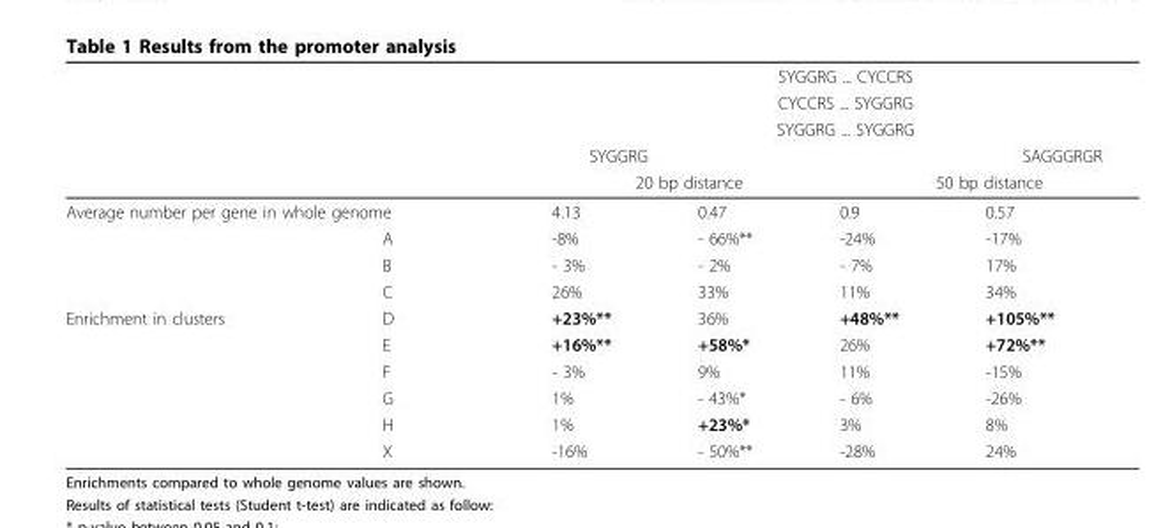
<table><thead><tr><td rowspan="5"></td><td rowspan="5"></td><td rowspan="3" colspan="4">SYGGRG ... CYCCRS CYCCRS ... SYGGRG SYGGRG ... SYGGRG</td></tr><tr></tr><tr></tr><tr><td>SYGGRG</td><td></td><td></td><td>SAGGGRGR</td></tr><tr><td colspan="2">20 bp distance</td><td colspan="2">50 bp distance</td></tr></thead><tbody><tr><td colspan="2">Average number per gene in whole genome</td><td>4.13</td><td>0.47</td><td>0.9</td><td>0.57</td></tr><tr><td></td><td>A</td><td>-8%</td><td>- 66%**</td><td>-24%</td><td>-17%</td></tr><tr><td></td><td>B</td><td>- 3%</td><td>- 2%</td><td>- 7%</td><td>17%</td></tr><tr><td></td><td>C</td><td>26%</td><td>33%</td><td>11%</td><td>34%</td></tr><tr><td rowspan="6">Enrichment in clusters</td><td>D</td><td>+23%**</td><td>36%</td><td>+48%**</td><td>+105%**</td></tr><tr><td>E</td><td>+16%**</td><td>+58%*</td><td>26%</td><td>+72%**</td></tr><tr><td>F</td><td>- 3%</td><td>9%</td><td>11%</td><td>-15%</td></tr><tr><td>G</td><td>1%</td><td>- 43%*</td><td>- 6%</td><td>-26%</td></tr><tr><td>H</td><td>1%</td><td>+23%*</td><td>3%</td><td>8%</td></tr><tr><td>X</td><td>-16%</td><td>- 50%**</td><td>-28%</td><td>24%</td></tr></tbody></table>